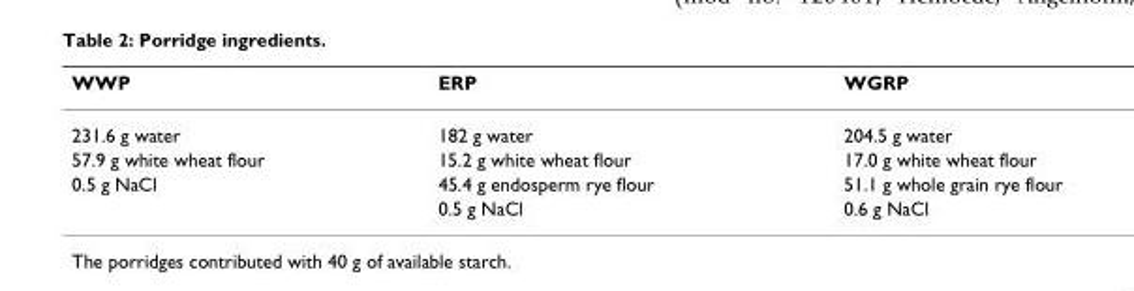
<table><thead><tr><td>WWP</td><td>ERP</td><td>WGRP</td></tr></thead><tbody><tr><td>231.6 g water</td><td>182 g water</td><td>204.5 g water</td></tr><tr><td>57.9 g white wheat flour</td><td>15.2 g white wheat flour</td><td>17.0 g white wheat flour</td></tr><tr><td rowspan="2">0.5 g NaCl</td><td>45.4 g endosperm rye flour</td><td>51.1 g whole grain rye flour</td></tr><tr><td>0.5 g NaCl</td><td>0.6 g NaCl</td></tr></tbody></table>